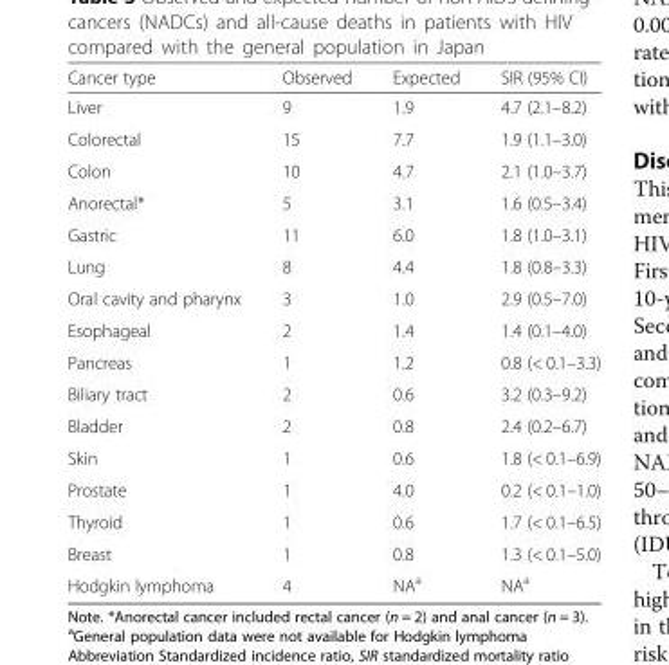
<table><thead><tr><td>Cancer type</td><td>Observed</td><td>Expected</td><td>SIR (95% CI)</td></tr></thead><tbody><tr><td>Liver</td><td>9</td><td>1.9</td><td>4.7 (2.1–8.2)</td></tr><tr><td>Colorectal</td><td>15</td><td>7.7</td><td>1.9 (1.1–3.0)</td></tr><tr><td>Colon</td><td>10</td><td>4.7</td><td>2.1 (1.0–3.7)</td></tr><tr><td>Anorectal*</td><td>5</td><td>3.1</td><td>1.6 (0.5–3.4)</td></tr><tr><td>Gastric</td><td>11</td><td>6.0</td><td>1.8 (1.0–3.1)</td></tr><tr><td>Lung</td><td>8</td><td>4.4</td><td>1.8 (0.8–3.3)</td></tr><tr><td>Oral cavity and pharynx</td><td>3</td><td>1.0</td><td>2.9 (0.5–7.0)</td></tr><tr><td>Esophageal</td><td>2</td><td>1.4</td><td>1.4 (0.1–4.0)</td></tr><tr><td>Pancreas</td><td>1</td><td>1.2</td><td>0.8 (&lt; 0.1–3.3)</td></tr><tr><td>Biliary tract</td><td>2</td><td>0.6</td><td>3.2 (0.3–9.2)</td></tr><tr><td>Bladder</td><td>2</td><td>0.8</td><td>2.4 (0.2–6.7)</td></tr><tr><td>Skin</td><td>1</td><td>0.6</td><td>1.8 (&lt; 0.1–6.9)</td></tr><tr><td>Prostate</td><td>1</td><td>4.0</td><td>0.2 (&lt; 0.1–1.0)</td></tr><tr><td>Thyroid</td><td>1</td><td>0.6</td><td>1.7 (&lt; 0.1–6.5)</td></tr><tr><td>Breast</td><td>1</td><td>0.8</td><td>1.3 (&lt; 0.1–5.0)</td></tr><tr><td>Hodgkin lymphoma</td><td>4</td><td>NA<sup>a</sup></td><td>NA<sup>a</sup></td></tr></tbody></table>